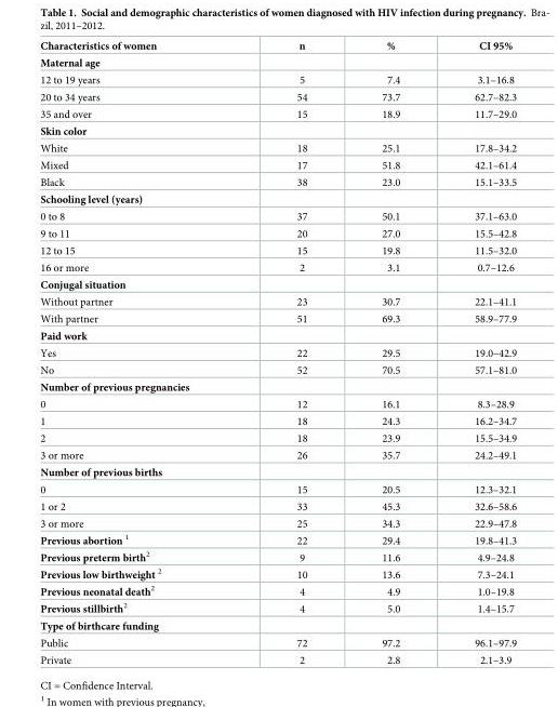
<table><thead><tr><td>Characteristics of women</td><td>n</td><td>%</td><td>CI 95%</td></tr></thead><tbody><tr><td colspan="4">Maternal age</td></tr><tr><td>12 to 19 years</td><td>5</td><td>7.4</td><td>3.1–16.8</td></tr><tr><td>20 to 34 years</td><td>54</td><td>73.7</td><td>62.7–82.3</td></tr><tr><td>35 and over</td><td>15</td><td>18.9</td><td>11.7–29.0</td></tr><tr><td colspan="4">Skin color</td></tr><tr><td>White</td><td>18</td><td>25.1</td><td>17.8–34.2</td></tr><tr><td>Mixed</td><td>17</td><td>51.8</td><td>42.1–61.4</td></tr><tr><td>Black</td><td>38</td><td>23.0</td><td>15.1–33.5</td></tr><tr><td colspan="4">Schooling level (years)</td></tr><tr><td>0 to 8</td><td>37</td><td>50.1</td><td>37.1–63.0</td></tr><tr><td>9 to 11</td><td>20</td><td>27.0</td><td>15.5–42.8</td></tr><tr><td>12 to 15</td><td>15</td><td>19.8</td><td>11.5–32.0</td></tr><tr><td>16 or more</td><td>2</td><td>3.1</td><td>0.7–12.6</td></tr><tr><td colspan="4">Conjugal situation</td></tr><tr><td>Without partner</td><td>23</td><td>30.7</td><td>22.1–41.1</td></tr><tr><td>With partner</td><td>51</td><td>69.3</td><td>58.9–77.9</td></tr><tr><td colspan="4">Paid work</td></tr><tr><td>Yes</td><td>22</td><td>29.5</td><td>19.0–42.9</td></tr><tr><td>No</td><td>52</td><td>70.5</td><td>57.1–81.0</td></tr><tr><td colspan="4">Number of previous pregnancies</td></tr><tr><td>0</td><td>12</td><td>16.1</td><td>8.3–28.9</td></tr><tr><td>1</td><td>18</td><td>24.3</td><td>16.2–34.7</td></tr><tr><td>2</td><td>18</td><td>23.9</td><td>15.5–34.9</td></tr><tr><td>3 or more</td><td>26</td><td>35.7</td><td>24.2–49.1</td></tr><tr><td colspan="4">Number of previous births</td></tr><tr><td>0</td><td>15</td><td>20.5</td><td>12.3–32.1</td></tr><tr><td>1 or 2</td><td>33</td><td>45.3</td><td>32.6–58.6</td></tr><tr><td>3 or more</td><td>25</td><td>34.3</td><td>22.9–47.8</td></tr><tr><td>Previous abortion <sup>1</sup></td><td>22</td><td>29.4</td><td>19.8–41.3</td></tr><tr><td>Previous preterm birth<sup>2</sup></td><td>9</td><td>11.6</td><td>4.9–24.8</td></tr><tr><td>Previous low birthweight <sup>2</sup></td><td>10</td><td>13.6</td><td>7.3–24.1</td></tr><tr><td>Previous neonatal death<sup>2</sup></td><td>4</td><td>4.9</td><td>1.0–19.8</td></tr><tr><td>Previous stillbirth<sup>2</sup></td><td>4</td><td>5.0</td><td>1.4–15.7</td></tr><tr><td colspan="4">Type of birthcare funding</td></tr><tr><td>Public</td><td>72</td><td>97.2</td><td>96.1–97.9</td></tr><tr><td>Private</td><td>2</td><td>2.8</td><td>2.1–3.9</td></tr></tbody></table>